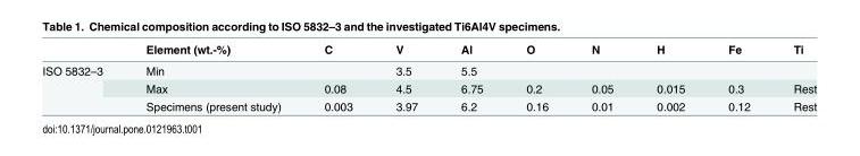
<table><thead><tr><td></td><td>Element (wt.-%)</td><td>C</td><td>V</td><td>Al</td><td>O</td><td>N</td><td>H</td><td>Fe</td><td>Ti</td></tr></thead><tbody><tr><td rowspan="3">ISO 5832–3</td><td>Min</td><td></td><td>3.5</td><td>5.5</td><td></td><td></td><td></td><td></td><td></td></tr><tr><td>Max</td><td>0.08</td><td>4.5</td><td>6.75</td><td>0.2</td><td>0.05</td><td>0.015</td><td>0.3</td><td>Rest</td></tr><tr><td>Specimens (present study)</td><td>0.003</td><td>3.97</td><td>6.2</td><td>0.16</td><td>0.01</td><td>0.002</td><td>0.12</td><td>Rest</td></tr></tbody></table>